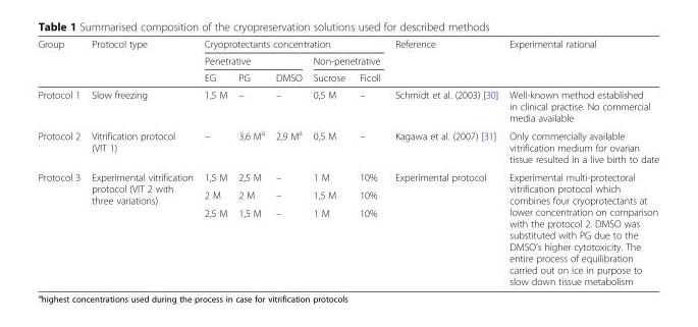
<table><thead><tr><td rowspan="3">Group</td><td rowspan="3">Protocol type</td><td colspan="5">Cryoprotectants concentration</td><td rowspan="3">Reference</td><td rowspan="3">Experimental rational</td></tr><tr><td colspan="3">Penetrative</td><td colspan="2">Non-penetrative</td></tr><tr><td>EG</td><td>PG</td><td>DMSO</td><td>Sucrose</td><td>Ficoll</td></tr></thead><tbody><tr><td>Protocol 1</td><td>Slow freezing</td><td>1,5 M</td><td>–</td><td>–</td><td>0,5 M</td><td>–</td><td>Schmidt et al. (2003) [30]</td><td>Well-known method established in clinical practise. No commercial media available</td></tr><tr><td>Protocol 2</td><td>Vitrification protocol (VIT 1)</td><td>–</td><td>3,6 M<sup>a</sup></td><td>2,9 M<sup>a</sup></td><td>0,5 M</td><td>–</td><td>Kagawa et al. (2007) [31]</td><td>Only commercially available vitrification medium for ovarian tissue resulted in a live birth to date</td></tr><tr><td rowspan="3">Protocol 3</td><td rowspan="3">Experimental vitrification protocol (VIT 2 with three variations)</td><td>1,5 M</td><td>2,5 M</td><td>–</td><td>1 M</td><td>10%</td><td rowspan="3">Experimental protocol</td><td rowspan="3">Experimental multi-protectoral vitrification protocol which combines four cryoprotectants at lower concentration on comparison with the protocol 2. DMSO was substituted with PG due to the DMSO’s higher cytotoxicity. The entire process of equilibration carried out on ice in purpose to slow down tissue metabolism</td></tr><tr><td>2 M</td><td>2 M</td><td>–</td><td>1,5 M</td><td>10%</td></tr><tr><td>2,5 M</td><td>1,5 M</td><td>–</td><td>1 M</td><td>10%</td></tr></tbody></table>